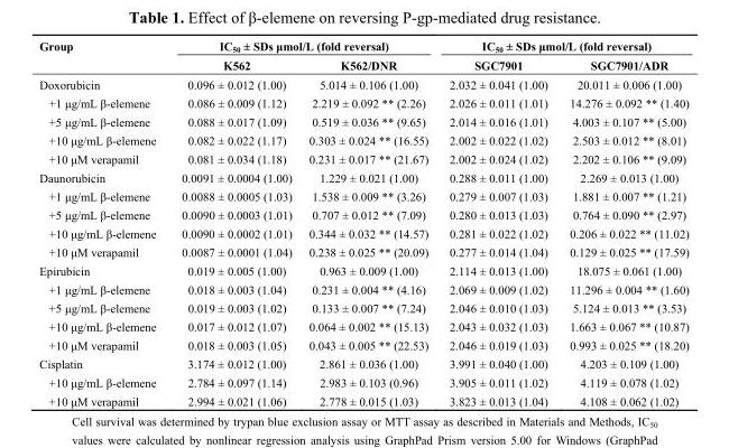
<table><thead><tr><td rowspan="2">Group</td><td colspan="2">IC<sub>50</sub> ± SDs μmol/L (fold reversal)</td><td colspan="2">IC<sub>50</sub> ± SDs μmol/L (fold reversal)</td></tr><tr><td>K562</td><td>K562/DNR</td><td>SGC7901</td><td>SGC7901/ADR</td></tr></thead><tbody><tr><td>Doxorubicin</td><td>0.096 ± 0.012 (1.00)</td><td>5.014 ± 0.106 (1.00)</td><td>2.032 ± 0.041 (1.00)</td><td>20.011 ± 0.006 (1.00)</td></tr><tr><td>+1 μg/mL β-elemene</td><td>0.086 ± 0.009 (1.12)</td><td>2.219 ± 0.092 ** (2.26)</td><td>2.026 ± 0.011 (1.01)</td><td>14.276 ± 0.092 ** (1.40)</td></tr><tr><td>+5 μg/mL β-elemene</td><td>0.088 ± 0.017 (1.09)</td><td>0.519 ± 0.036 ** (9.65)</td><td>2.014 ± 0.016 (1.01)</td><td>4.003 ± 0.107 ** (5.00)</td></tr><tr><td>+10 μg/mL β-elemene</td><td>0.082 ± 0.022 (1.17)</td><td>0.303 ± 0.024 ** (16.55)</td><td>2.002 ± 0.022 (1.02)</td><td>2.503 ± 0.012 ** (8.01)</td></tr><tr><td>+10 μM verapamil</td><td>0.081 ± 0.034 (1.18)</td><td>0.231 ± 0.017 ** (21.67)</td><td>2.002 ± 0.024 (1.02)</td><td>2.202 ± 0.106 ** (9.09)</td></tr><tr><td>Daunorubicin</td><td>0.0091 ± 0.0004 (1.00)</td><td>1.229 ± 0.021 (1.00)</td><td>0.288 ± 0.011 (1.00)</td><td>2.269 ± 0.013 (1.00)</td></tr><tr><td>+1 μg/mL β-elemene</td><td>0.0088 ± 0.0005 (1.03)</td><td>1.538 ± 0.009 ** (3.26)</td><td>0.279 ± 0.007 (1.03)</td><td>1.881 ± 0.007 ** (1.21)</td></tr><tr><td>+5 μg/mL β-elemene</td><td>0.0090 ± 0.0003 (1.01)</td><td>0.707 ± 0.012 ** (7.09)</td><td>0.280 ± 0.013 (1.03)</td><td>0.764 ± 0.090 ** (2.97)</td></tr><tr><td>+10 μg/mL β-elemene</td><td>0.0090 ± 0.0002 (1.01)</td><td>0.344 ± 0.032 ** (14.57)</td><td>0.281 ± 0.022 (1.02)</td><td>0.206 ± 0.022 ** (11.02)</td></tr><tr><td>+10 μM verapamil</td><td>0.0087 ± 0.0001 (1.04)</td><td>0.238 ± 0.025 ** (20.09)</td><td>0.277 ± 0.014 (1.04)</td><td>0.129 ± 0.025 ** (17.59)</td></tr><tr><td>Epirubicin</td><td>0.019 ± 0.005 (1.00)</td><td>0.963 ± 0.009 (1.00)</td><td>2.114 ± 0.013 (1.00)</td><td>18.075 ± 0.061 (1.00)</td></tr><tr><td>+1 μg/mL β-elemene</td><td>0.018 ± 0.003 (1.04)</td><td>0.231 ± 0.004 ** (4.16)</td><td>2.069 ± 0.009 (1.02)</td><td>11.296 ± 0.004 ** (1.60)</td></tr><tr><td>+5 μg/mL β-elemene</td><td>0.019 ± 0.003 (1.02)</td><td>0.133 ± 0.007 ** (7.24)</td><td>2.046 ± 0.010 (1.03)</td><td>5.124 ± 0.013 ** (3.53)</td></tr><tr><td>+10 μg/mL β-elemene</td><td>0.017 ± 0.012 (1.07)</td><td>0.064 ± 0.002 ** (15.13)</td><td>2.043 ± 0.032 (1.03)</td><td>1.663 ± 0.067 ** (10.87)</td></tr><tr><td>+10 μM verapamil</td><td>0.018 ± 0.003 (1.05)</td><td>0.043 ± 0.005 ** (22.53)</td><td>2.046 ± 0.019 (1.03)</td><td>0.993 ± 0.025 ** (18.20)</td></tr><tr><td>Cisplatin</td><td>3.174 ± 0.012 (1.00)</td><td>2.861 ± 0.036 (1.00)</td><td>3.991 ± 0.040 (1.00)</td><td>4.203 ± 0.109 (1.00)</td></tr><tr><td>+10 μg/mL β-elemene</td><td>2.784 ± 0.097 (1.14)</td><td>2.983 ± 0.103 (0.96)</td><td>3.905 ± 0.011 (1.02)</td><td>4.119 ± 0.078 (1.02)</td></tr><tr><td>+10 μM verapamil</td><td>2.994 ± 0.021 (1.06)</td><td>2.778 ± 0.015 (1.03)</td><td>3.823 ± 0.013 (1.04)</td><td>4.108 ± 0.062 (1.02)</td></tr></tbody></table>